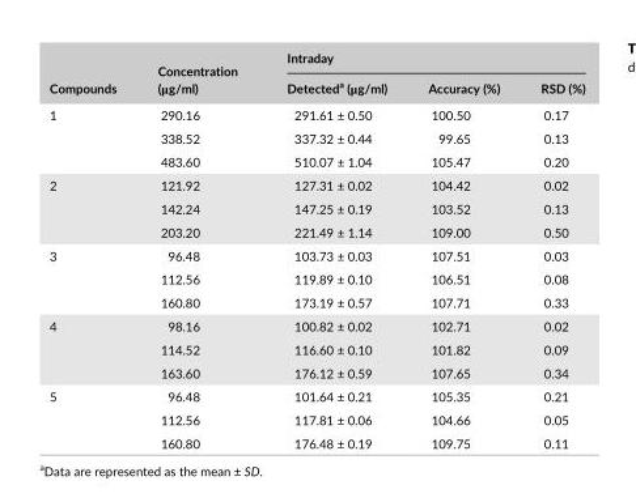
<table><thead><tr><td rowspan="2">Compounds</td><td rowspan="2">Concentration (μg/ml)</td><td colspan="3">Intraday</td></tr><tr><td>Detected<sup>a</sup> (μg/ml)</td><td>Accuracy (%)</td><td>RSD (%)</td></tr></thead><tbody><tr><td rowspan="3">1</td><td>290.16</td><td>291.61 ± 0.50</td><td>100.50</td><td>0.17</td></tr><tr><td>338.52</td><td>337.32 ± 0.44</td><td>99.65</td><td>0.13</td></tr><tr><td>483.60</td><td>510.07 ± 1.04</td><td>105.47</td><td>0.20</td></tr><tr><td rowspan="3">2</td><td>121.92</td><td>127.31 ± 0.02</td><td>104.42</td><td>0.02</td></tr><tr><td>142.24</td><td>147.25 ± 0.19</td><td>103.52</td><td>0.13</td></tr><tr><td>203.20</td><td>221.49 ± 1.14</td><td>109.00</td><td>0.50</td></tr><tr><td rowspan="3">3</td><td>96.48</td><td>103.73 ± 0.03</td><td>107.51</td><td>0.03</td></tr><tr><td>112.56</td><td>119.89 ± 0.10</td><td>106.51</td><td>0.08</td></tr><tr><td>160.80</td><td>173.19 ± 0.57</td><td>107.71</td><td>0.33</td></tr><tr><td rowspan="3">4</td><td>98.16</td><td>100.82 ± 0.02</td><td>102.71</td><td>0.02</td></tr><tr><td>114.52</td><td>116.60 ± 0.10</td><td>101.82</td><td>0.09</td></tr><tr><td>163.60</td><td>176.12 ± 0.59</td><td>107.65</td><td>0.34</td></tr><tr><td rowspan="3">5</td><td>96.48</td><td>101.64 ± 0.21</td><td>105.35</td><td>0.21</td></tr><tr><td>112.56</td><td>117.81 ± 0.06</td><td>104.66</td><td>0.05</td></tr><tr><td>160.80</td><td>176.48 ± 0.19</td><td>109.75</td><td>0.11</td></tr></tbody></table>